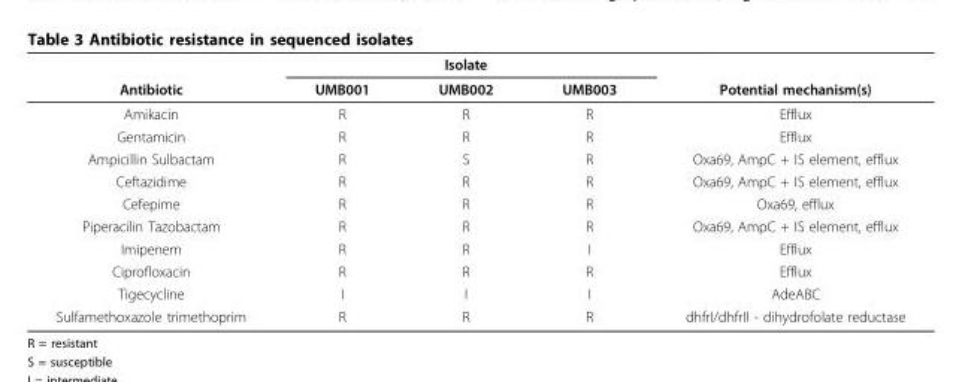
<table><thead><tr><td rowspan="2">Antibiotic</td><td colspan="3">Isolate</td><td rowspan="2">Potential mechanism(s)</td></tr><tr><td>UMB001</td><td>UMB002</td><td>UMB003</td></tr></thead><tbody><tr><td>Amikacin</td><td>R</td><td>R</td><td>R</td><td>Efflux</td></tr><tr><td>Gentamicin</td><td>R</td><td>R</td><td>R</td><td>Efflux</td></tr><tr><td>Ampicillin Sulbactam</td><td>R</td><td>S</td><td>R</td><td>Oxa69, AmpC + IS element, efflux</td></tr><tr><td>Ceftazidime</td><td>R</td><td>R</td><td>R</td><td>Oxa69, AmpC + IS element, efflux</td></tr><tr><td>Cefepime</td><td>R</td><td>R</td><td>R</td><td>Oxa69, efflux</td></tr><tr><td>Piperacilin Tazobactam</td><td>R</td><td>R</td><td>R</td><td>Oxa69, AmpC + IS element, efflux</td></tr><tr><td>Imipenem</td><td>R</td><td>R</td><td>I</td><td>Efflux</td></tr><tr><td>Ciprofloxacin</td><td>R</td><td>R</td><td>R</td><td>Efflux</td></tr><tr><td>Tigecycline</td><td>I</td><td>I</td><td>I</td><td>AdeABC</td></tr><tr><td>Sulfamethoxazole trimethoprim</td><td>R</td><td>R</td><td>R</td><td>dhfrI/dhfrII - dihydrofolate reductase</td></tr></tbody></table>